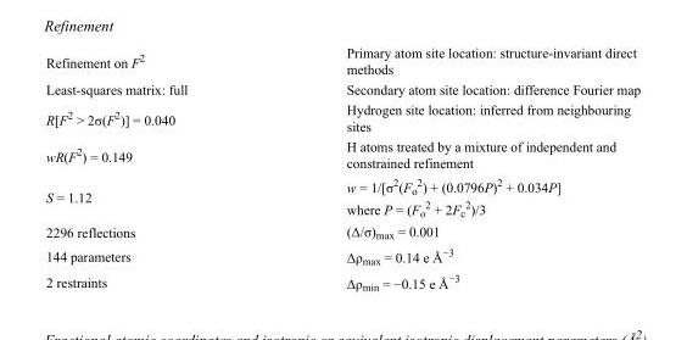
<table><tbody><tr><td>Refinement on F<sup>2</sup></td><td>Primary atom site location: structure-invariant direct methods</td></tr><tr><td>Least-squares matrix: full</td><td>Secondary atom site location: difference Fourier map</td></tr><tr><td>R[F<sup>2</sup> &gt; 2σ(F<sup>2</sup>)] = 0.040</td><td>Hydrogen site location: inferred from neighbouring sites</td></tr><tr><td>wR(F<sup>2</sup>) = 0.149</td><td>H atoms treated by a mixture of independent and constrained refinement</td></tr><tr><td>S = 1.12</td><td>w = 1/[σ<sup>2</sup>(F<sub>o</sub> <sup>2</sup>) + (0.0796P)<sup>2</sup> + 0.034P] where P = (F<sub>o</sub> <sup>2</sup> + 2F<sub>c</sub> <sup>2</sup>)/3</td></tr><tr><td>2296 reflections</td><td>(Δ/σ)<sub>max</sub> = 0.001</td></tr><tr><td>144 parameters</td><td>Δρ<sub>max</sub> = 0.14 e Å<sup>−3</sup></td></tr><tr><td>2 restraints</td><td>Δρ<sub>min</sub> = −0.15 e Å<sup>−3</sup></td></tr></tbody></table>